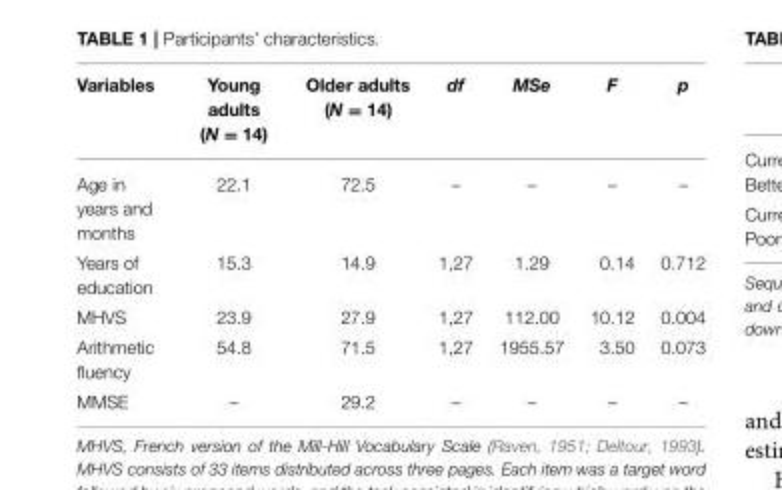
<table><thead><tr><td>Variables</td><td>Young adults (N = 14)</td><td>Older adults (N = 14)</td><td>df</td><td>MSe</td><td>F</td><td>p</td></tr></thead><tbody><tr><td>Age in years and months</td><td>22.1</td><td>72.5</td><td>–</td><td>–</td><td>–</td><td>–</td></tr><tr><td>Years of education</td><td>15.3</td><td>14.9</td><td>1,27</td><td>1.29</td><td>0.14</td><td>0.712</td></tr><tr><td>MHVS</td><td>23.9</td><td>27.9</td><td>1,27</td><td>112.00</td><td>10.12</td><td>0.004</td></tr><tr><td>Arithmetic fluency</td><td>54.8</td><td>71.5</td><td>1,27</td><td>1955.57</td><td>3.50</td><td>0.073</td></tr><tr><td>MMSE</td><td>–</td><td>29.2</td><td>–</td><td>–</td><td>–</td><td>–</td></tr></tbody></table>